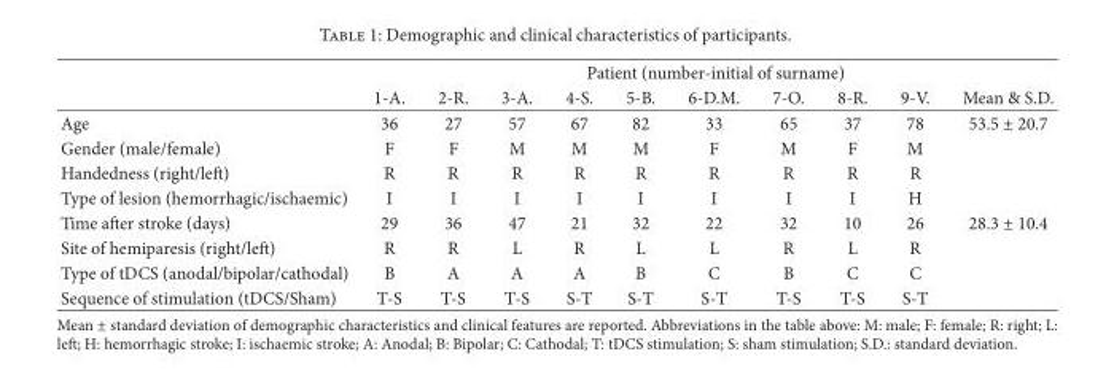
<table><thead><tr><td rowspan="2"></td><td colspan="10">Patient (number-initial of surname)</td></tr><tr><td>1-A.</td><td>2-R.</td><td>3-A.</td><td>4-S.</td><td>5-B.</td><td>6-D.M.</td><td>7-O.</td><td>8-R.</td><td>9-V.</td><td>Mean &amp; S.D.</td></tr></thead><tbody><tr><td>Age</td><td>36</td><td>27</td><td>57</td><td>67</td><td>82</td><td>33</td><td>65</td><td>37</td><td>78</td><td>53.5 ± 20.7</td></tr><tr><td>Gender (male/female)</td><td>F</td><td>F</td><td>M</td><td>M</td><td>M</td><td>F</td><td>M</td><td>F</td><td>M</td><td></td></tr><tr><td>Handedness (right/le)</td><td>R</td><td>R</td><td>R</td><td>R</td><td>R</td><td>R</td><td>R</td><td>R</td><td>R</td><td></td></tr><tr><td>Type of lesion (hemorrhagic/ischaemic)</td><td>I</td><td>I</td><td>I</td><td>I</td><td>I</td><td>I</td><td>I</td><td>I</td><td>H</td><td></td></tr><tr><td>Time aer stroke (days)</td><td>29</td><td>36</td><td>47</td><td>21</td><td>32</td><td>22</td><td>32</td><td>10</td><td>26</td><td>28.3 ± 10.4</td></tr><tr><td>Site of hemiparesis (right/le)</td><td>R</td><td>R</td><td>L</td><td>R</td><td>L</td><td>L</td><td>R</td><td>L</td><td>R</td><td></td></tr><tr><td>Type of tDCS (anodal/bipolar/cathodal)</td><td>B</td><td>A</td><td>A</td><td>A</td><td>B</td><td>C</td><td>B</td><td>C</td><td>C</td><td></td></tr><tr><td>Sequence of stimulation (tDCS/Sham)</td><td>T-S</td><td>T-S</td><td>T-S</td><td>S-T</td><td>S-T</td><td>S-T</td><td>T-S</td><td>T-S</td><td>S-T</td><td></td></tr></tbody></table>